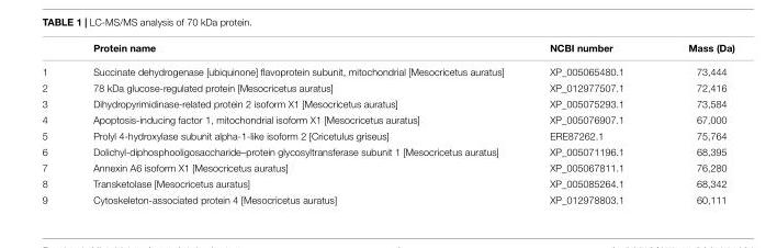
<table><thead><tr><td></td><td>Protein name</td><td>NCBI number</td><td>Mass (Da)</td></tr></thead><tbody><tr><td>1</td><td>Succinate dehydrogenase [ubiquinone] flavoprotein subunit, mitochondrial [Mesocricetus auratus]</td><td>XP_005065480.1</td><td>73,444</td></tr><tr><td>2</td><td>78 kDa glucose-regulated protein [Mesocricetus auratus]</td><td>XP_012977507.1</td><td>72,416</td></tr><tr><td>3</td><td>Dihydropyrimidinase-related protein 2 isoform X1 [Mesocricetus auratus]</td><td>XP_005075293.1</td><td>73,584</td></tr><tr><td>4</td><td>Apoptosis-inducing factor 1, mitochondrial isoform X1 [Mesocricetus auratus]</td><td>XP_005076907.1</td><td>67,000</td></tr><tr><td>5</td><td>Prolyl 4-hydroxylase subunit alpha-1-like isoform 2 [Cricetulus griseus]</td><td>ERE87262.1</td><td>75,764</td></tr><tr><td>6</td><td>Dolichyl-diphosphooligosaccharide–protein glycosyltransferase subunit 1 [Mesocricetus auratus]</td><td>XP_005071196.1</td><td>68,395</td></tr><tr><td>7</td><td>Annexin A6 isoform X1 [Mesocricetus auratus]</td><td>XP_005067811.1</td><td>76,280</td></tr><tr><td>8</td><td>Transketolase [Mesocricetus auratus]</td><td>XP_005085264.1</td><td>68,342</td></tr><tr><td>9</td><td>Cytoskeleton-associated protein 4 [Mesocricetus auratus]</td><td>XP_012978803.1</td><td>60,111</td></tr></tbody></table>